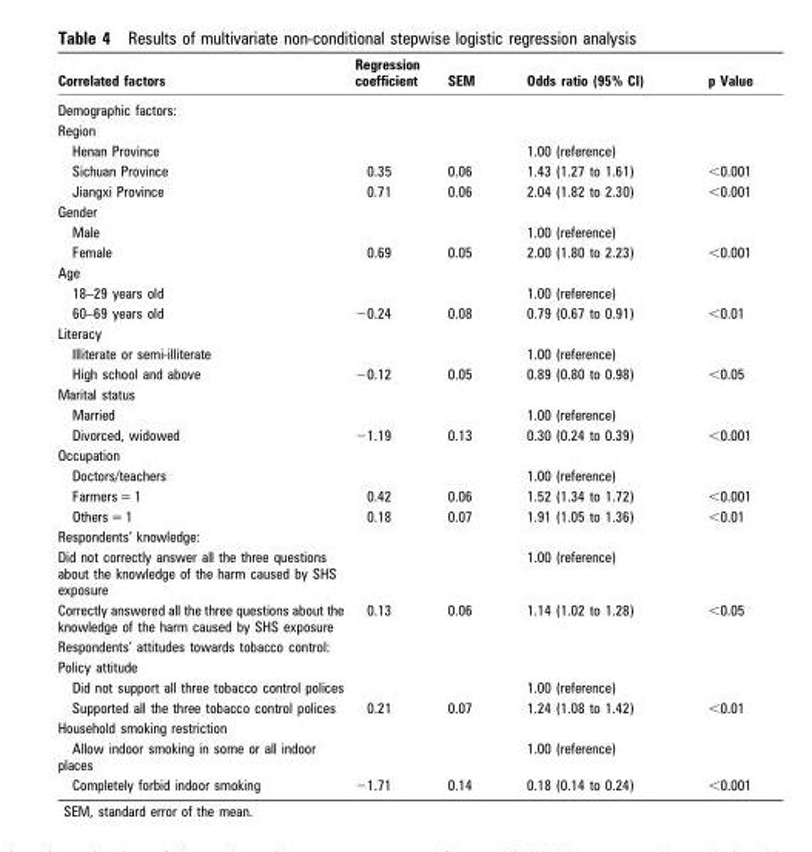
<table><thead><tr><td>Correlated factors</td><td>Regression coefficient</td><td>SEM</td><td>Odds ratio (95% CI)</td><td>p Value</td></tr></thead><tbody><tr><td colspan="5">Demographic factors:</td></tr><tr><td colspan="5">Region</td></tr><tr><td>Henan Province</td><td></td><td></td><td>1.00 (reference)</td><td></td></tr><tr><td>Sichuan Province</td><td>0.35</td><td>0.06</td><td>1.43 (1.27 to 1.61)</td><td>&lt;0.001</td></tr><tr><td>Jiangxi Province</td><td>0.71</td><td>0.06</td><td>2.04 (1.82 to 2.30)</td><td>&lt;0.001</td></tr><tr><td colspan="5">Gender</td></tr><tr><td>Male</td><td></td><td></td><td>1.00 (reference)</td><td></td></tr><tr><td>Female</td><td>0.69</td><td>0.05</td><td>2.00 (1.80 to 2.23)</td><td>&lt;0.001</td></tr><tr><td colspan="5">Age</td></tr><tr><td>18–29 years old</td><td></td><td></td><td>1.00 (reference)</td><td></td></tr><tr><td>60–69 years old</td><td>−0.24</td><td>0.08</td><td>0.79 (0.67 to 0.91)</td><td>&lt;0.01</td></tr><tr><td colspan="5">Literacy</td></tr><tr><td>Illiterate or semi-illiterate</td><td></td><td></td><td>1.00 (reference)</td><td></td></tr><tr><td>High school and above</td><td>−0.12</td><td>0.05</td><td>0.89 (0.80 to 0.98)</td><td>&lt;0.05</td></tr><tr><td colspan="5">Marital status</td></tr><tr><td>Married</td><td></td><td></td><td>1.00 (reference)</td><td></td></tr><tr><td>Divorced, widowed</td><td>−1.19</td><td>0.13</td><td>0.30 (0.24 to 0.39)</td><td>&lt;0.001</td></tr><tr><td colspan="5">Occupation</td></tr><tr><td>Doctors/teachers</td><td></td><td></td><td>1.00 (reference)</td><td></td></tr><tr><td>Farmers = 1</td><td>0.42</td><td>0.06</td><td>1.52 (1.34 to 1.72)</td><td>&lt;0.001</td></tr><tr><td>Others = 1</td><td>0.18</td><td>0.07</td><td>1.91 (1.05 to 1.36)</td><td>&lt;0.01</td></tr><tr><td colspan="5">Respondents’ knowledge:</td></tr><tr><td>Did not correctly answer all the three questions about the knowledge of the harm caused by SHS exposure</td><td></td><td></td><td>1.00 (reference)</td><td></td></tr><tr><td>Correctly answered all the three questions about the knowledge of the harm caused by SHS exposure</td><td>0.13</td><td>0.06</td><td>1.14 (1.02 to 1.28)</td><td>&lt;0.05</td></tr><tr><td colspan="5">Respondents’ attitudes towards tobacco control:</td></tr><tr><td colspan="5">Policy attitude</td></tr><tr><td>Did not support all three tobacco control polices</td><td></td><td></td><td>1.00 (reference)</td><td></td></tr><tr><td>Supported all the three tobacco control polices</td><td>0.21</td><td>0.07</td><td>1.24 (1.08 to 1.42)</td><td>&lt;0.01</td></tr><tr><td colspan="5">Household smoking restriction</td></tr><tr><td>Allow indoor smoking in some or all indoor places</td><td></td><td></td><td>1.00 (reference)</td><td></td></tr><tr><td>Completely forbid indoor smoking</td><td>−1.71</td><td>0.14</td><td>0.18 (0.14 to 0.24)</td><td>&lt;0.001</td></tr></tbody></table>